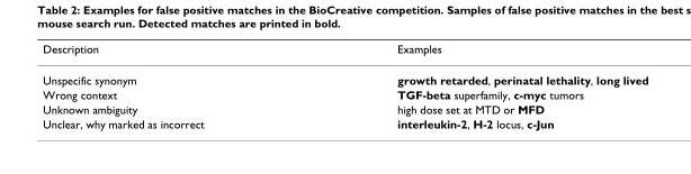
<table><thead><tr><td>Description</td><td>Examples</td></tr></thead><tbody><tr><td>Unspecific synonym</td><td>growth retarded, perinatal lethality, long lived</td></tr><tr><td>Wrong context</td><td>TGF-beta superfamily, c-myc tumors</td></tr><tr><td>Unknown ambiguity</td><td>high dose set at MTD or MFD</td></tr><tr><td>Unclear, why marked as incorrect</td><td>interleukin-2, H-2 locus, c-Jun</td></tr></tbody></table>